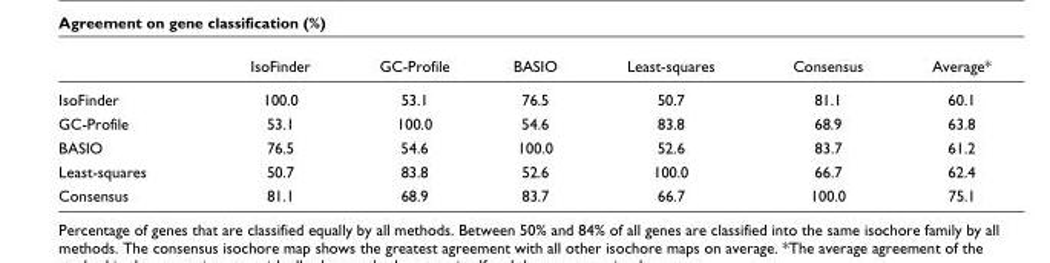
<table><thead><tr><td></td><td>IsoFinder</td><td>GC-Profile</td><td>BASIO</td><td>Least-squares</td><td>Consensus</td><td>Average*</td></tr></thead><tbody><tr><td>IsoFinder</td><td>100.0</td><td>53.1</td><td>76.5</td><td>50.7</td><td>81.1</td><td>60.1</td></tr><tr><td>GC-Profile</td><td>53.1</td><td>100.0</td><td>54.6</td><td>83.8</td><td>68.9</td><td>63.8</td></tr><tr><td>BASIO</td><td>76.5</td><td>54.6</td><td>100.0</td><td>52.6</td><td>83.7</td><td>61.2</td></tr><tr><td>Least-squares</td><td>50.7</td><td>83.8</td><td>52.6</td><td>100.0</td><td>66.7</td><td>62.4</td></tr><tr><td>Consensus</td><td>81.1</td><td>68.9</td><td>83.7</td><td>66.7</td><td>100.0</td><td>75.1</td></tr></tbody></table>